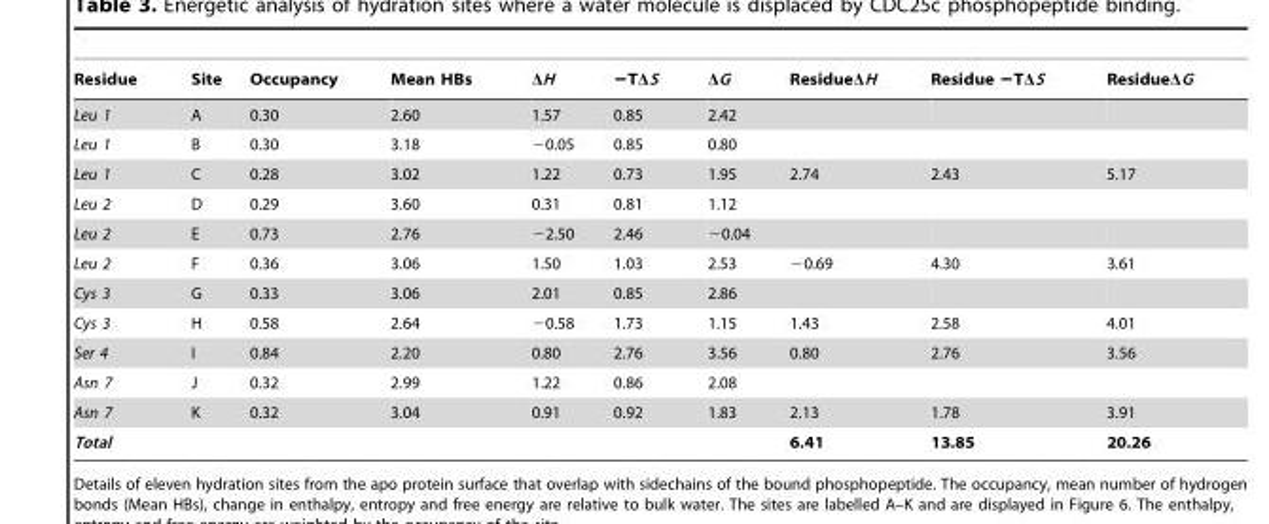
<table><thead><tr><td>Residue</td><td>Site</td><td>Occupancy</td><td>Mean HBs</td><td>ΔH</td><td>−TΔS</td><td>ΔG</td><td>ResidueΔH</td><td>Residue −TΔS</td><td>ResidueΔG</td></tr></thead><tbody><tr><td>Leu 1</td><td>A</td><td>0.30</td><td>2.60</td><td>1.57</td><td>0.85</td><td>2.42</td><td></td><td></td><td></td></tr><tr><td>Leu 1</td><td>B</td><td>0.30</td><td>3.18</td><td>−0.05</td><td>0.85</td><td>0.80</td><td></td><td></td><td></td></tr><tr><td>Leu 1</td><td>C</td><td>0.28</td><td>3.02</td><td>1.22</td><td>0.73</td><td>1.95</td><td>2.74</td><td>2.43</td><td>5.17</td></tr><tr><td>Leu 2</td><td>D</td><td>0.29</td><td>3.60</td><td>0.31</td><td>0.81</td><td>1.12</td><td></td><td></td><td></td></tr><tr><td>Leu 2</td><td>E</td><td>0.73</td><td>2.76</td><td>−2.50</td><td>2.46</td><td>−0.04</td><td></td><td></td><td></td></tr><tr><td>Leu 2</td><td>F</td><td>0.36</td><td>3.06</td><td>1.50</td><td>1.03</td><td>2.53</td><td>−0.69</td><td>4.30</td><td>3.61</td></tr><tr><td>Cys 3</td><td>G</td><td>0.33</td><td>3.06</td><td>2.01</td><td>0.85</td><td>2.86</td><td></td><td></td><td></td></tr><tr><td>Cys 3</td><td>H</td><td>0.58</td><td>2.64</td><td>−0.58</td><td>1.73</td><td>1.15</td><td>1.43</td><td>2.58</td><td>4.01</td></tr><tr><td>Ser 4</td><td>I</td><td>0.84</td><td>2.20</td><td>0.80</td><td>2.76</td><td>3.56</td><td>0.80</td><td>2.76</td><td>3.56</td></tr><tr><td>Asn 7</td><td>J</td><td>0.32</td><td>2.99</td><td>1.22</td><td>0.86</td><td>2.08</td><td></td><td></td><td></td></tr><tr><td>Asn 7</td><td>K</td><td>0.32</td><td>3.04</td><td>0.91</td><td>0.92</td><td>1.83</td><td>2.13</td><td>1.78</td><td>3.91</td></tr><tr><td>Total</td><td></td><td></td><td></td><td></td><td></td><td></td><td>6.41</td><td>13.85</td><td>20.26</td></tr></tbody></table>